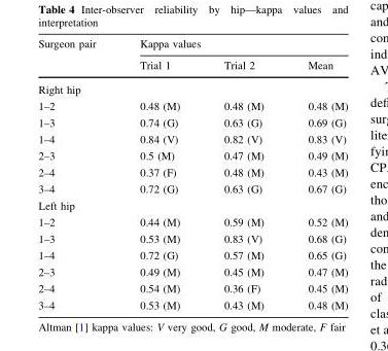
<table><thead><tr><td rowspan="2">Surgeon pair</td><td colspan="3">Kappa values</td></tr><tr><td>Trial 1</td><td>Trial 2</td><td>Mean</td></tr></thead><tbody><tr><td colspan="4">Right hip</td></tr><tr><td>1–2</td><td>0.48 (M)</td><td>0.48 (M)</td><td>0.48 (M)</td></tr><tr><td>1–3</td><td>0.74 (G)</td><td>0.63 (G)</td><td>0.69 (G)</td></tr><tr><td>1–4</td><td>0.84 (V)</td><td>0.82 (V)</td><td>0.83 (V)</td></tr><tr><td>2–3</td><td>0.5 (M)</td><td>0.47 (M)</td><td>0.49 (M)</td></tr><tr><td>2–4</td><td>0.37 (F)</td><td>0.48 (M)</td><td>0.43 (M)</td></tr><tr><td>3–4</td><td>0.72 (G)</td><td>0.63 (G)</td><td>0.67 (G)</td></tr><tr><td colspan="4">Left hip</td></tr><tr><td>1–2</td><td>0.44 (M)</td><td>0.59 (M)</td><td>0.52 (M)</td></tr><tr><td>1–3</td><td>0.53 (M)</td><td>0.83 (V)</td><td>0.68 (G)</td></tr><tr><td>1–4</td><td>0.72 (G)</td><td>0.57 (M)</td><td>0.65 (G)</td></tr><tr><td>2–3</td><td>0.49 (M)</td><td>0.45 (M)</td><td>0.47 (M)</td></tr><tr><td>2–4</td><td>0.54 (M)</td><td>0.36 (F)</td><td>0.45 (M)</td></tr><tr><td>3–4</td><td>0.53 (M)</td><td>0.43 (M)</td><td>0.48 (M)</td></tr></tbody></table>